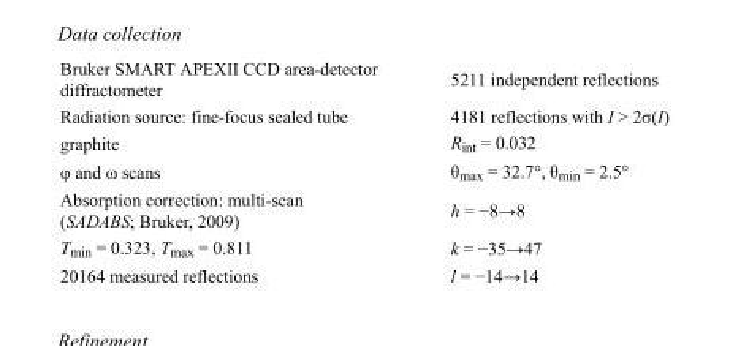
<table><tbody><tr><td>Bruker SMART APEXII CCD area-detector diffractometer</td><td>5211 independent reflections</td></tr><tr><td>Radiation source: fine-focus sealed tube</td><td>4181 reflections with I &gt; 2σ(I)</td></tr><tr><td>graphite</td><td>R<sub>int</sub> = 0.032</td></tr><tr><td>φ and ω scans</td><td>θ<sub>max</sub> = 32.7°, θ<sub>min</sub> = 2.5°</td></tr><tr><td>Absorption correction: multi-scan (SADABS; Bruker, 2009)</td><td>h = −8→8</td></tr><tr><td>T<sub>min</sub> = 0.323, T<sub>max</sub> = 0.811</td><td>k = −35→47</td></tr><tr><td>20164 measured reflections</td><td>l = −14→14</td></tr></tbody></table>